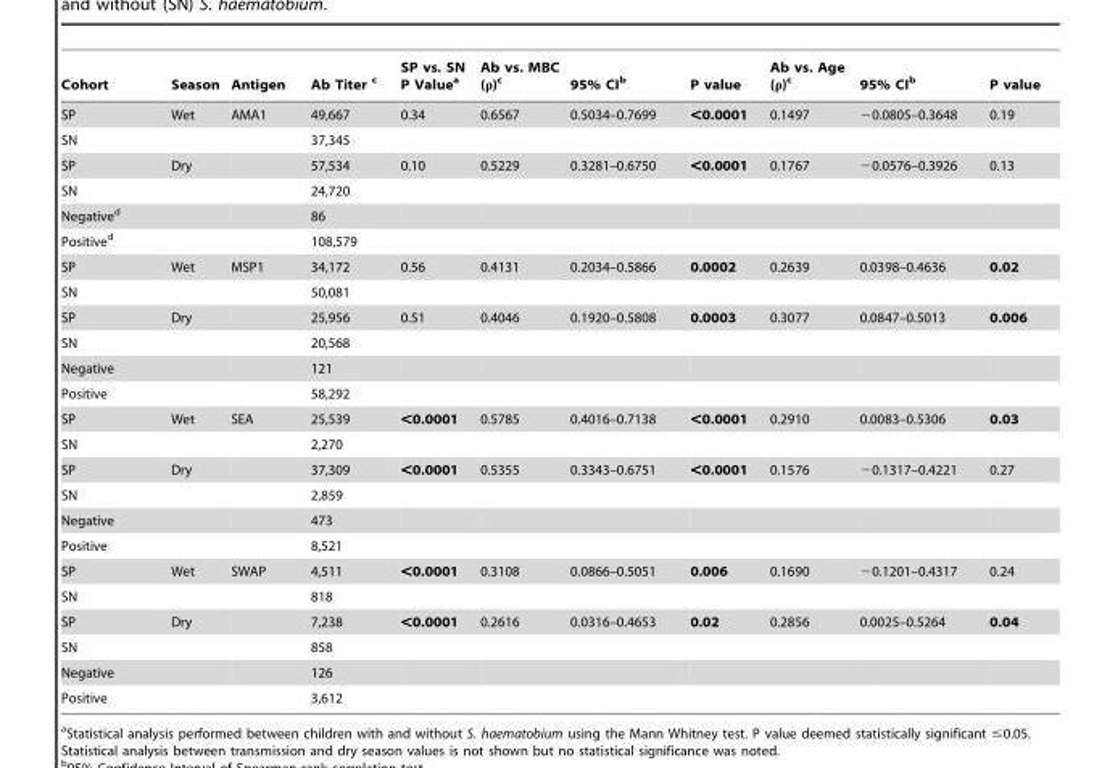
<table><thead><tr><td>Cohort</td><td>Season</td><td>Antigen</td><td>Ab Titer c</td><td>SP vs. SN P Value<sup>a</sup></td><td>Ab vs. MBC (ρ)<sup>c</sup></td><td>95% CI<sup>b</sup></td><td>P value</td><td>Ab vs. Age (ρ)<sup>c</sup></td><td>95% CI<sup>b</sup></td><td>P value</td></tr></thead><tbody><tr><td>SP</td><td>Wet</td><td>AMA1</td><td>49,667</td><td>0.34</td><td>0.6567</td><td>0.5034–0.7699</td><td>&lt;0.0001</td><td>0.1497</td><td>−0.0805–0.3648</td><td>0.19</td></tr><tr><td>SN</td><td></td><td></td><td>37,345</td><td></td><td></td><td></td><td></td><td></td><td></td><td></td></tr><tr><td>SP</td><td>Dry</td><td></td><td>57,534</td><td>0.10</td><td>0.5229</td><td>0.3281–0.6750</td><td>&lt;0.0001</td><td>0.1767</td><td>−0.0576–0.3926</td><td>0.13</td></tr><tr><td>SN</td><td></td><td></td><td>24,720</td><td></td><td></td><td></td><td></td><td></td><td></td><td></td></tr><tr><td>Negative<sup>d</sup></td><td></td><td></td><td>86</td><td></td><td></td><td></td><td></td><td></td><td></td><td></td></tr><tr><td>Positive<sup>d</sup></td><td></td><td></td><td>108,579</td><td></td><td></td><td></td><td></td><td></td><td></td><td></td></tr><tr><td>SP</td><td>Wet</td><td>MSP1</td><td>34,172</td><td>0.56</td><td>0.4131</td><td>0.2034–0.5866</td><td>0.0002</td><td>0.2639</td><td>0.0398–0.4636</td><td>0.02</td></tr><tr><td>SN</td><td></td><td></td><td>50,081</td><td></td><td></td><td></td><td></td><td></td><td></td><td></td></tr><tr><td>SP</td><td>Dry</td><td></td><td>25,956</td><td>0.51</td><td>0.4046</td><td>0.1920–0.5808</td><td>0.0003</td><td>0.3077</td><td>0.0847–0.5013</td><td>0.006</td></tr><tr><td>SN</td><td></td><td></td><td>20,568</td><td></td><td></td><td></td><td></td><td></td><td></td><td></td></tr><tr><td>Negative</td><td></td><td></td><td>121</td><td></td><td></td><td></td><td></td><td></td><td></td><td></td></tr><tr><td>Positive</td><td></td><td></td><td>58,292</td><td></td><td></td><td></td><td></td><td></td><td></td><td></td></tr><tr><td>SP</td><td>Wet</td><td>SEA</td><td>25,539</td><td>&lt;0.0001</td><td>0.5785</td><td>0.4016–0.7138</td><td>&lt;0.0001</td><td>0.2910</td><td>0.0083–0.5306</td><td>0.03</td></tr><tr><td>SN</td><td></td><td></td><td>2,270</td><td></td><td></td><td></td><td></td><td></td><td></td><td></td></tr><tr><td>SP</td><td>Dry</td><td></td><td>37,309</td><td>&lt;0.0001</td><td>0.5355</td><td>0.3343–0.6751</td><td>&lt;0.0001</td><td>0.1576</td><td>−0.1317–0.4221</td><td>0.27</td></tr><tr><td>SN</td><td></td><td></td><td>2,859</td><td></td><td></td><td></td><td></td><td></td><td></td><td></td></tr><tr><td>Negative</td><td></td><td></td><td>473</td><td></td><td></td><td></td><td></td><td></td><td></td><td></td></tr><tr><td>Positive</td><td></td><td></td><td>8,521</td><td></td><td></td><td></td><td></td><td></td><td></td><td></td></tr><tr><td>SP</td><td>Wet</td><td>SWAP</td><td>4,511</td><td>&lt;0.0001</td><td>0.3108</td><td>0.0866–0.5051</td><td>0.006</td><td>0.1690</td><td>−0.1201–0.4317</td><td>0.24</td></tr><tr><td>SN</td><td></td><td></td><td>818</td><td></td><td></td><td></td><td></td><td></td><td></td><td></td></tr><tr><td>SP</td><td>Dry</td><td></td><td>7,238</td><td>&lt;0.0001</td><td>0.2616</td><td>0.0316–0.4653</td><td>0.02</td><td>0.2856</td><td>0.0025–0.5264</td><td>0.04</td></tr><tr><td>SN</td><td></td><td></td><td>858</td><td></td><td></td><td></td><td></td><td></td><td></td><td></td></tr><tr><td>Negative</td><td></td><td></td><td>126</td><td></td><td></td><td></td><td></td><td></td><td></td><td></td></tr><tr><td>Positive</td><td></td><td></td><td>3,612</td><td></td><td></td><td></td><td></td><td></td><td></td><td></td></tr></tbody></table>